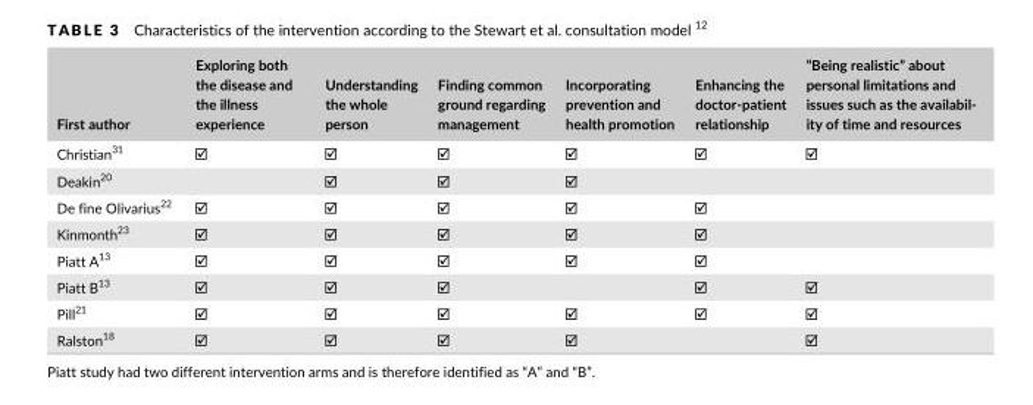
<table><thead><tr><td>First author</td><td>Exploring both the disease and the illness experience</td><td>Understanding the whole person</td><td>Finding common ground regarding management</td><td>Incorporating prevention and health promotion</td><td>Enhancing the doctor- patient relationship</td><td>“Being realistic” about personal limitations and issues such as the availabil- ity of time and resources</td></tr></thead><tbody><tr><td colspan="7">Christian<sup>31</sup></td></tr><tr><td colspan="7">Deakin<sup>20</sup></td></tr><tr><td colspan="7">De fine Olivarius<sup>22</sup></td></tr><tr><td colspan="7">Kinmonth<sup>23</sup></td></tr><tr><td colspan="7">Piatt A<sup>13</sup></td></tr><tr><td colspan="7">Piatt B<sup>13</sup></td></tr><tr><td colspan="7">Pill<sup>21</sup></td></tr><tr><td>Ralston<sup>18</sup></td><td></td><td></td><td></td><td></td><td></td><td></td></tr></tbody></table>